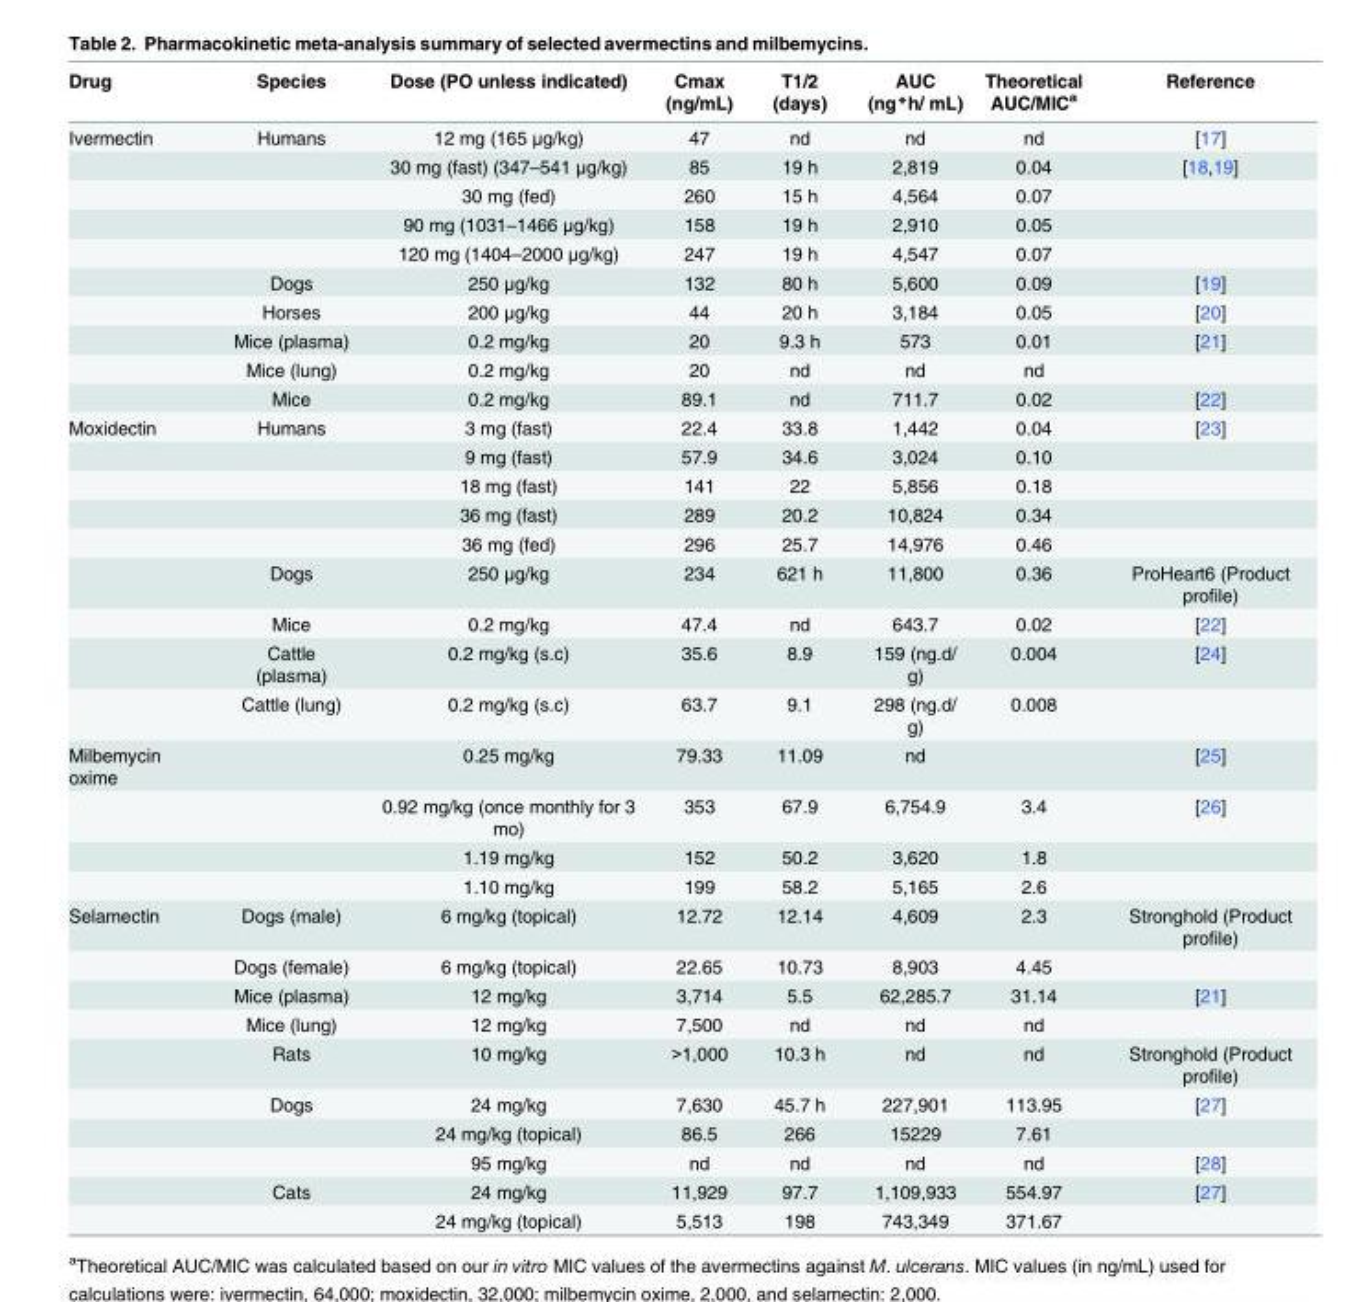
<table><thead><tr><td>Drug</td><td>Species</td><td>Dose (PO unless indicated)</td><td>Cmax (ng/mL)</td><td>T1/2 (days)</td><td>AUC (ng*h/ mL)</td><td>Theoretical AUC/MIC<sup>a</sup></td><td>Reference</td></tr></thead><tbody><tr><td rowspan="10">Ivermectin</td><td>Humans</td><td>12 mg (165 μg/kg)</td><td>47</td><td>nd</td><td>nd</td><td>nd</td><td>[17]</td></tr><tr><td></td><td>30 mg (fast) (347–541 μg/kg)</td><td>85</td><td>19 h</td><td>2,819</td><td>0.04</td><td>[18,19]</td></tr><tr><td></td><td>30 mg (fed)</td><td>260</td><td>15 h</td><td>4,564</td><td>0.07</td><td></td></tr><tr><td></td><td>90 mg (1031–1466 μg/kg)</td><td>158</td><td>19 h</td><td>2,910</td><td>0.05</td><td></td></tr><tr><td></td><td>120 mg (1404–2000 μg/kg)</td><td>247</td><td>19 h</td><td>4,547</td><td>0.07</td><td></td></tr><tr><td>Dogs</td><td>250 μg/kg</td><td>132</td><td>80 h</td><td>5,600</td><td>0.09</td><td>[19]</td></tr><tr><td>Horses</td><td>200 μg/kg</td><td>44</td><td>20 h</td><td>3,184</td><td>0.05</td><td>[20]</td></tr><tr><td>Mice (plasma)</td><td>0.2 mg/kg</td><td>20</td><td>9.3 h</td><td>573</td><td>0.01</td><td>[21]</td></tr><tr><td>Mice (lung)</td><td>0.2 mg/kg</td><td>20</td><td>nd</td><td>nd</td><td>nd</td><td></td></tr><tr><td>Mice</td><td>0.2 mg/kg</td><td>89.1</td><td>nd</td><td>711.7</td><td>0.02</td><td>[22]</td></tr><tr><td rowspan="9">Moxidectin</td><td>Humans</td><td>3 mg (fast)</td><td>22.4</td><td>33.8</td><td>1,442</td><td>0.04</td><td>[23]</td></tr><tr><td></td><td>9 mg (fast)</td><td>57.9</td><td>34.6</td><td>3,024</td><td>0.10</td><td></td></tr><tr><td></td><td>18 mg (fast)</td><td>141</td><td>22</td><td>5,856</td><td>0.18</td><td></td></tr><tr><td></td><td>36 mg (fast)</td><td>289</td><td>20.2</td><td>10,824</td><td>0.34</td><td></td></tr><tr><td></td><td>36 mg (fed)</td><td>296</td><td>25.7</td><td>14,976</td><td>0.46</td><td></td></tr><tr><td>Dogs</td><td>250 μg/kg</td><td>234</td><td>621 h</td><td>11,800</td><td>0.36</td><td>ProHeart6 (Product profile)</td></tr><tr><td>Mice</td><td>0.2 mg/kg</td><td>47.4</td><td>nd</td><td>643.7</td><td>0.02</td><td>[22]</td></tr><tr><td>Cattle (plasma)</td><td>0.2 mg/kg (s.c)</td><td>35.6</td><td>8.9</td><td>159 (ng.d/ g)</td><td>0.004</td><td>[24]</td></tr><tr><td>Cattle (lung)</td><td>0.2 mg/kg (s.c)</td><td>63.7</td><td>9.1</td><td>298 (ng.d/ g)</td><td>0.008</td><td></td></tr><tr><td rowspan="4">Milbemycin oxime</td><td></td><td>0.25 mg/kg</td><td>79.33</td><td>11.09</td><td>nd</td><td></td><td>[25]</td></tr><tr><td></td><td>0.92 mg/kg (once monthly for 3 mo)</td><td>353</td><td>67.9</td><td>6,754.9</td><td>3.4</td><td>[26]</td></tr><tr><td></td><td>1.19 mg/kg</td><td>152</td><td>50.2</td><td>3,620</td><td>1.8</td><td></td></tr><tr><td></td><td>1.10 mg/kg</td><td>199</td><td>58.2</td><td>5,165</td><td>2.6</td><td></td></tr><tr><td rowspan="10">Selamectin</td><td>Dogs (male)</td><td>6 mg/kg (topical)</td><td>12.72</td><td>12.14</td><td>4,609</td><td>2.3</td><td>Stronghold (Product profile)</td></tr><tr><td>Dogs (female)</td><td>6 mg/kg (topical)</td><td>22.65</td><td>10.73</td><td>8,903</td><td>4.45</td><td></td></tr><tr><td>Mice (plasma)</td><td>12 mg/kg</td><td>3,714</td><td>5.5</td><td>62,285.7</td><td>31.14</td><td>[21]</td></tr><tr><td>Mice (lung)</td><td>12 mg/kg</td><td>7,500</td><td>nd</td><td>nd</td><td>nd</td><td></td></tr><tr><td>Rats</td><td>10 mg/kg</td><td>&gt;1,000</td><td>10.3 h</td><td>nd</td><td>nd</td><td>Stronghold (Product profile)</td></tr><tr><td>Dogs</td><td>24 mg/kg</td><td>7,630</td><td>45.7 h</td><td>227,901</td><td>113.95</td><td>[27]</td></tr><tr><td></td><td>24 mg/kg (topical)</td><td>86.5</td><td>266</td><td>15229</td><td>7.61</td><td></td></tr><tr><td></td><td>95 mg/kg</td><td>nd</td><td>nd</td><td>nd</td><td>nd</td><td>[28]</td></tr><tr><td>Cats</td><td>24 mg/kg</td><td>11,929</td><td>97.7</td><td>1,109,933</td><td>554.97</td><td>[27]</td></tr><tr><td></td><td>24 mg/kg (topical)</td><td>5,513</td><td>198</td><td>743,349</td><td>371.67</td><td></td></tr></tbody></table>